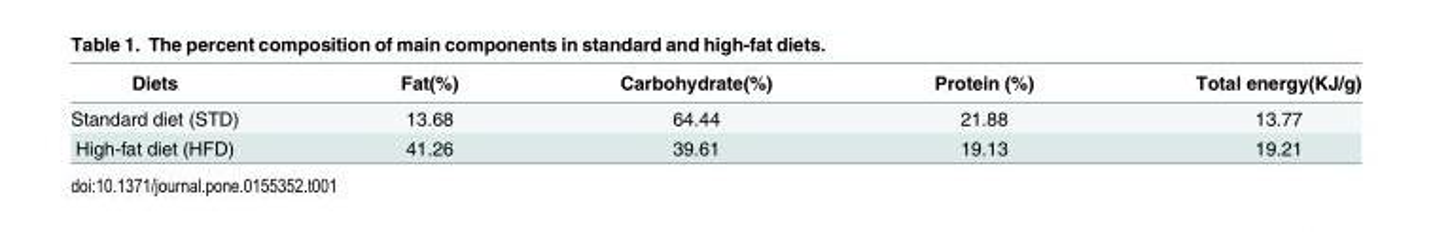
<table><thead><tr><td>Diets</td><td>Fat(%)</td><td>Carbohydrate(%)</td><td>Protein (%)</td><td>Total energy(KJ/g)</td></tr></thead><tbody><tr><td>Standard diet (STD)</td><td>13.68</td><td>64.44</td><td>21.88</td><td>13.77</td></tr><tr><td>High-fat diet (HFD)</td><td>41.26</td><td>39.61</td><td>19.13</td><td>19.21</td></tr></tbody></table>